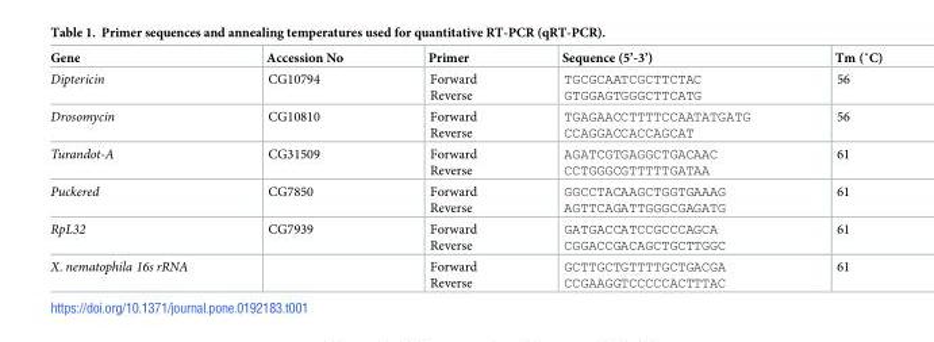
<table><thead><tr><td>Gene</td><td>Accession No</td><td>Primer</td><td>Sequence (5’-3’)</td><td>Tm (˚C)</td></tr></thead><tbody><tr><td>Diptericin</td><td>CG10794</td><td>Forward Reverse</td><td>TGCGCAATCGCTTCTAC GTGGAGTGGGCTTCATG</td><td>56</td></tr><tr><td>Drosomycin</td><td>CG10810</td><td>Forward Reverse</td><td>TGAGAACCTTTTCCAATATGATG CCAGGACCACCAGCAT</td><td>56</td></tr><tr><td>Turandot-A</td><td>CG31509</td><td>Forward Reverse</td><td>AGATCGTGAGGCTGACAAC CCTGGGCGTTTTTGATAA</td><td>61</td></tr><tr><td>Puckered</td><td>CG7850</td><td>Forward Reverse</td><td>GGCCTACAAGCTGGTGAAAG AGTTCAGATTGGGCGAGATG</td><td>61</td></tr><tr><td>RpL32</td><td>CG7939</td><td>Forward Reverse</td><td>GATGACCATCCGCCCAGCA CGGACCGACAGCTGCTTGGC</td><td>61</td></tr><tr><td>X. nematophila 16s rRNA</td><td></td><td>Forward Reverse</td><td>GCTTGCTGTTTTGCTGACGA CCGAAGGTCCCCCACTTTAC</td><td>61</td></tr></tbody></table>